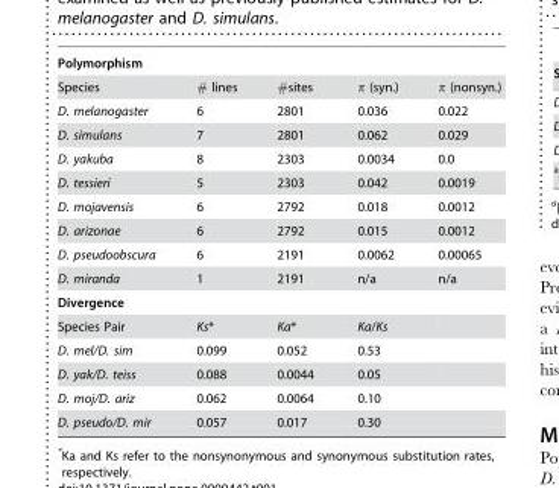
<table><tbody><tr><td colspan="5">Polymorphism</td></tr><tr><td>Species</td><td># lines</td><td>#sites</td><td>π (syn.)</td><td>π (nonsyn.)</td></tr><tr><td>D. melanogaster</td><td>6</td><td>2801</td><td>0.036</td><td>0.022</td></tr><tr><td>D. simulans</td><td>7</td><td>2801</td><td>0.062</td><td>0.029</td></tr><tr><td>D. yakuba</td><td>8</td><td>2303</td><td>0.0034</td><td>0.0</td></tr><tr><td>D. tessieri</td><td>5</td><td>2303</td><td>0.042</td><td>0.0019</td></tr><tr><td>D. mojavensis</td><td>6</td><td>2792</td><td>0.018</td><td>0.0012</td></tr><tr><td>D. arizonae</td><td>6</td><td>2792</td><td>0.015</td><td>0.0012</td></tr><tr><td>D. pseudoobscura</td><td>6</td><td>2191</td><td>0.0062</td><td>0.00065</td></tr><tr><td>D. miranda</td><td>1</td><td>2191</td><td>n/a</td><td>n/a</td></tr><tr><td colspan="5">Divergence</td></tr><tr><td>Species Pair</td><td>Ks*</td><td>Ka*</td><td>Ka/Ks</td><td></td></tr><tr><td>D. mel/D. sim</td><td>0.099</td><td>0.052</td><td>0.53</td><td></td></tr><tr><td>D. yak/D. teiss</td><td>0.088</td><td>0.0044</td><td>0.05</td><td></td></tr><tr><td>D. moj/D. ariz</td><td>0.062</td><td>0.0064</td><td>0.10</td><td></td></tr><tr><td>D. pseudo/D. mir</td><td>0.057</td><td>0.017</td><td>0.30</td><td></td></tr></tbody></table>